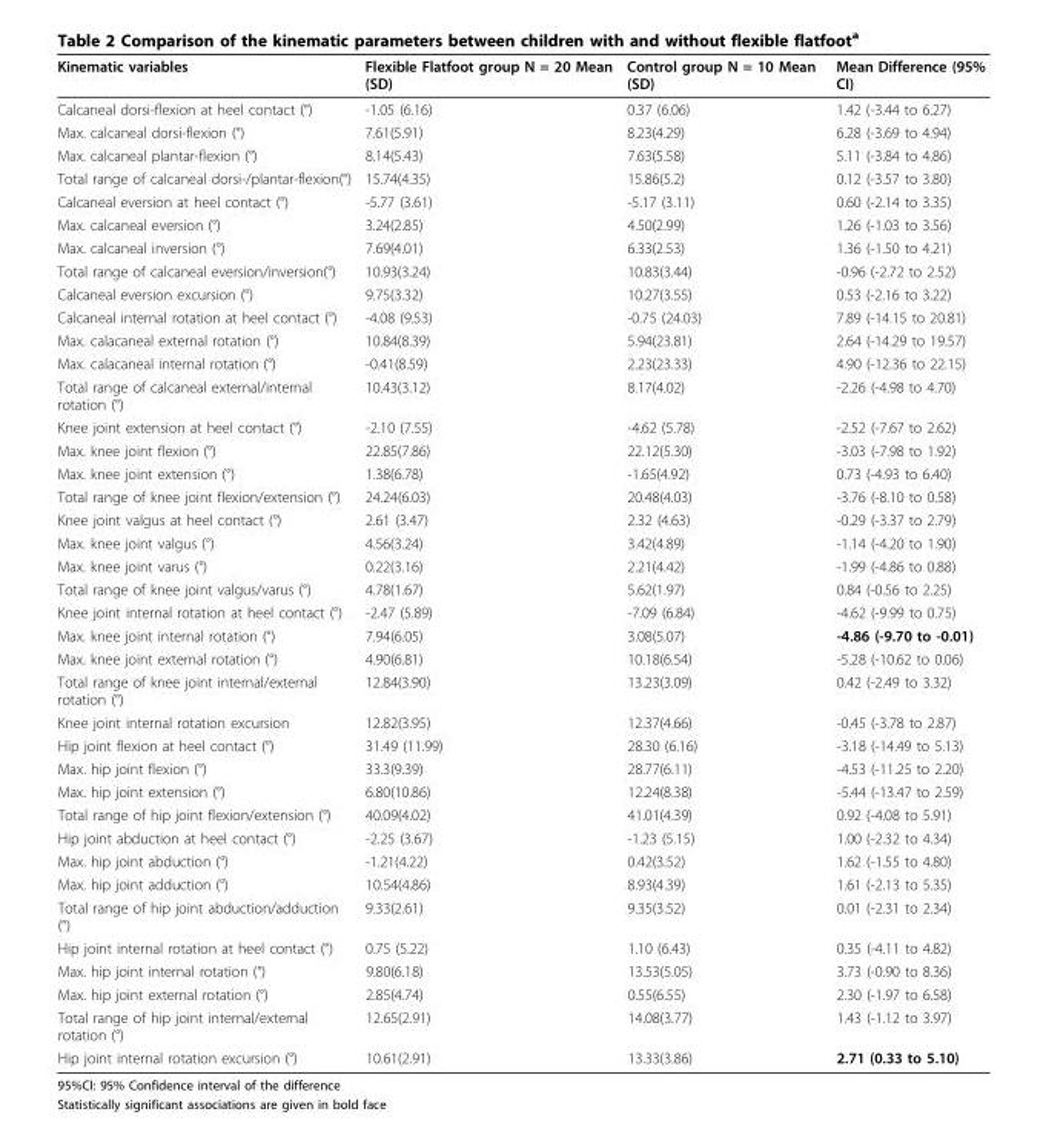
<table><thead><tr><td>Kinematic variables</td><td>Flexible Flatfoot group N = 20 Mean (SD)</td><td>Control group N = 10 Mean (SD)</td><td>Mean Difference (95% CI)</td></tr></thead><tbody><tr><td>Calcaneal dorsi-flexion at heel contact (°)</td><td>-1.05 (6.16)</td><td>0.37 (6.06)</td><td>1.42 (-3.44 to 6.27)</td></tr><tr><td>Max. calcaneal dorsi-flexion (°)</td><td>7.61(5.91)</td><td>8.23(4.29)</td><td>6.28 (-3.69 to 4.94)</td></tr><tr><td>Max. calcaneal plantar-flexion (°)</td><td>8.14(5.43)</td><td>7.63(5.58)</td><td>5.11 (-3.84 to 4.86)</td></tr><tr><td>Total range of calcaneal dorsi-/plantar-flexion(°)</td><td>15.74(4.35)</td><td>15.86(5.2)</td><td>0.12 (-3.57 to 3.80)</td></tr><tr><td>Calcaneal eversion at heel contact (°)</td><td>-5.77 (3.61)</td><td>-5.17 (3.11)</td><td>0.60 (-2.14 to 3.35)</td></tr><tr><td>Max. calcaneal eversion (°)</td><td>3.24(2.85)</td><td>4.50(2.99)</td><td>1.26 (-1.03 to 3.56)</td></tr><tr><td>Max. calcaneal inversion (°)</td><td>7.69(4.01)</td><td>6.33(2.53)</td><td>1.36 (-1.50 to 4.21)</td></tr><tr><td>Total range of calcaneal eversion/inversion(°)</td><td>10.93(3.24)</td><td>10.83(3.44)</td><td>-0.96 (-2.72 to 2.52)</td></tr><tr><td>Calcaneal eversion excursion (°)</td><td>9.75(3.32)</td><td>10.27(3.55)</td><td>0.53 (-2.16 to 3.22)</td></tr><tr><td>Calcaneal internal rotation at heel contact (°)</td><td>-4.08 (9.53)</td><td>-0.75 (24.03)</td><td>7.89 (-14.15 to 20.81)</td></tr><tr><td>Max. calacaneal external rotation (°)</td><td>10.84(8.39)</td><td>5.94(23.81)</td><td>2.64 (-14.29 to 19.57)</td></tr><tr><td>Max. calacaneal internal rotation (°)</td><td>-0.41(8.59)</td><td>2.23(23.33)</td><td>4.90 (-12.36 to 22.15)</td></tr><tr><td>Total range of calcaneal external/internal rotation (°)</td><td>10.43(3.12)</td><td>8.17(4.02)</td><td>-2.26 (-4.98 to 4.70)</td></tr><tr><td>Knee joint extension at heel contact (°)</td><td>-2.10 (7.55)</td><td>-4.62 (5.78)</td><td>-2.52 (-7.67 to 2.62)</td></tr><tr><td>Max. knee joint flexion (°)</td><td>22.85(7.86)</td><td>22.12(5.30)</td><td>-3.03 (-7.98 to 1.92)</td></tr><tr><td>Max. knee joint extension (°)</td><td>1.38(6.78)</td><td>-1.65(4.92)</td><td>0.73 (-4.93 to 6.40)</td></tr><tr><td>Total range of knee joint flexion/extension (°)</td><td>24.24(6.03)</td><td>20.48(4.03)</td><td>-3.76 (-8.10 to 0.58)</td></tr><tr><td>Knee joint valgus at heel contact (°)</td><td>2.61 (3.47)</td><td>2.32 (4.63)</td><td>-0.29 (-3.37 to 2.79)</td></tr><tr><td>Max. knee joint valgus (°)</td><td>4.56(3.24)</td><td>3.42(4.89)</td><td>-1.14 (-4.20 to 1.90)</td></tr><tr><td>Max. knee joint varus (°)</td><td>0.22(3.16)</td><td>2.21(4.42)</td><td>-1.99 (-4.86 to 0.88)</td></tr><tr><td>Total range of knee joint valgus/varus (°)</td><td>4.78(1.67)</td><td>5.62(1.97)</td><td>0.84 (-0.56 to 2.25)</td></tr><tr><td>Knee joint internal rotation at heel contact (°)</td><td>-2.47 (5.89)</td><td>-7.09 (6.84)</td><td>-4.62 (-9.99 to 0.75)</td></tr><tr><td>Max. knee joint internal rotation (°)</td><td>7.94(6.05)</td><td>3.08(5.07)</td><td>-4.86 (-9.70 to -0.01)</td></tr><tr><td>Max. knee joint external rotation (°)</td><td>4.90(6.81)</td><td>10.18(6.54)</td><td>-5.28 (-10.62 to 0.06)</td></tr><tr><td>Total range of knee joint internal/external rotation (°)</td><td>12.84(3.90)</td><td>13.23(3.09)</td><td>0.42 (-2.49 to 3.32)</td></tr><tr><td>Knee joint internal rotation excursion</td><td>12.82(3.95)</td><td>12.37(4.66)</td><td>-0.45 (-3.78 to 2.87)</td></tr><tr><td>Hip joint flexion at heel contact (°)</td><td>31.49 (11.99)</td><td>28.30 (6.16)</td><td>-3.18 (-14.49 to 5.13)</td></tr><tr><td>Max. hip joint flexion (°)</td><td>33.3(9.39)</td><td>28.77(6.11)</td><td>-4.53 (-11.25 to 2.20)</td></tr><tr><td>Max. hip joint extension (°)</td><td>6.80(10.86)</td><td>12.24(8.38)</td><td>-5.44 (-13.47 to 2.59)</td></tr><tr><td>Total range of hip joint flexion/extension (°)</td><td>40.09(4.02)</td><td>41.01(4.39)</td><td>0.92 (-4.08 to 5.91)</td></tr><tr><td>Hip joint abduction at heel contact (°)</td><td>-2.25 (3.67)</td><td>-1.23 (5.15)</td><td>1.00 (-2.32 to 4.34)</td></tr><tr><td>Max. hip joint abduction (°)</td><td>-1.21(4.22)</td><td>0.42(3.52)</td><td>1.62 (-1.55 to 4.80)</td></tr><tr><td>Max. hip joint adduction (°)</td><td>10.54(4.86)</td><td>8.93(4.39)</td><td>1.61 (-2.13 to 5.35)</td></tr><tr><td>Total range of hip joint abduction/adduction (°)</td><td>9.33(2.61)</td><td>9.35(3.52)</td><td>0.01 (-2.31 to 2.34)</td></tr><tr><td>Hip joint internal rotation at heel contact (°)</td><td>0.75 (5.22)</td><td>1.10 (6.43)</td><td>0.35 (-4.11 to 4.82)</td></tr><tr><td>Max. hip joint internal rotation (°)</td><td>9.80(6.18)</td><td>13.53(5.05)</td><td>3.73 (-0.90 to 8.36)</td></tr><tr><td>Max. hip joint external rotation (°)</td><td>2.85(4.74)</td><td>0.55(6.55)</td><td>2.30 (-1.97 to 6.58)</td></tr><tr><td>Total range of hip joint internal/external rotation (°)</td><td>12.65(2.91)</td><td>14.08(3.77)</td><td>1.43 (-1.12 to 3.97)</td></tr><tr><td>Hip joint internal rotation excursion (°)</td><td>10.61(2.91)</td><td>13.33(3.86)</td><td>2.71 (0.33 to 5.10)</td></tr></tbody></table>